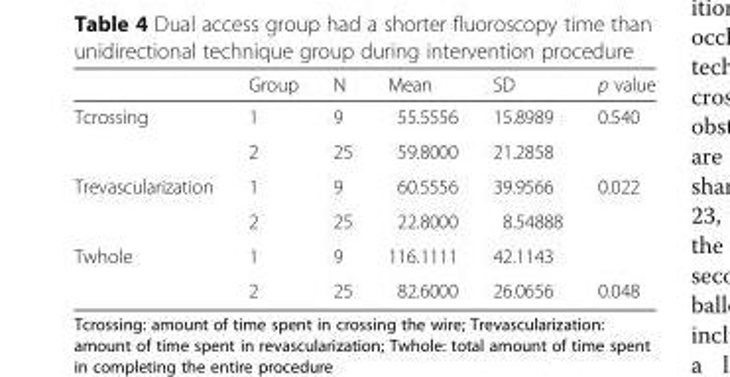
<table><thead><tr><td></td><td>Group</td><td>N</td><td>Mean</td><td>SD</td><td>p value</td></tr></thead><tbody><tr><td rowspan="2">Tcrossing</td><td>1</td><td>9</td><td>55.5556</td><td>15.8989</td><td rowspan="2">0.540</td></tr><tr><td>2</td><td>25</td><td>59.8000</td><td>21.2858</td></tr><tr><td rowspan="2">Trevascularization</td><td>1</td><td>9</td><td>60.5556</td><td>39.9566</td><td rowspan="2">0.022</td></tr><tr><td>2</td><td>25</td><td>22.8000</td><td>8.54888</td></tr><tr><td rowspan="2">Twhole</td><td>1</td><td>9</td><td>116.1111</td><td>42.1143</td><td></td></tr><tr><td>2</td><td>25</td><td>82.6000</td><td>26.0656</td><td>0.048</td></tr></tbody></table>